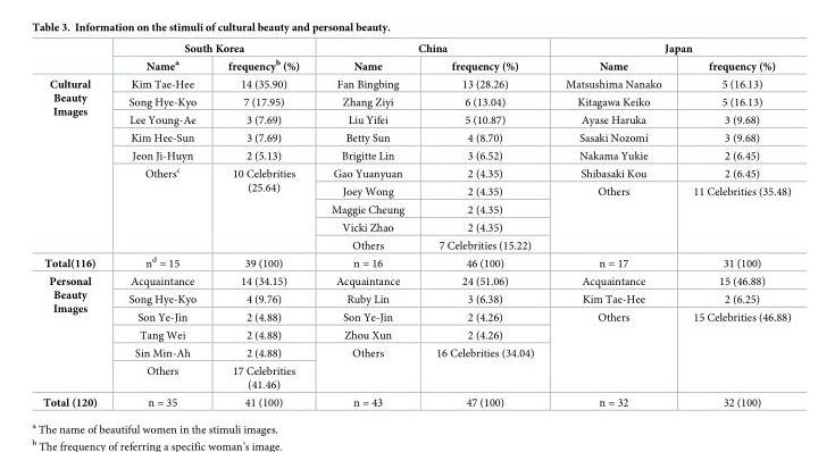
<table><thead><tr><td rowspan="2"></td><td colspan="2">South Korea</td><td colspan="2">China</td><td colspan="2">Japan</td></tr><tr><td>Name<sup>a</sup></td><td>frequency<sup>b</sup> (%)</td><td>Name</td><td>frequency (%)</td><td>Name</td><td>frequency (%)</td></tr></thead><tbody><tr><td rowspan="10">Cultural Beauty Images</td><td>Kim Tae-Hee</td><td>14 (35.90)</td><td>Fan Bingbing</td><td>13 (28.26)</td><td>Matsushima Nanako</td><td>5 (16.13)</td></tr><tr><td>Song Hye-Kyo</td><td>7 (17.95)</td><td>Zhang Ziyi</td><td>6 (13.04)</td><td>Kitagawa Keiko</td><td>5 (16.13)</td></tr><tr><td>Lee Young-Ae</td><td>3 (7.69)</td><td>Liu Yifei</td><td>5 (10.87)</td><td>Ayase Haruka</td><td>3 (9.68)</td></tr><tr><td>Kim Hee-Sun</td><td>3 (7.69)</td><td>Betty Sun</td><td>4 (8.70)</td><td>Sasaki Nozomi</td><td>3 (9.68)</td></tr><tr><td>Jeon Ji-Huyn</td><td>2 (5.13)</td><td>Brigitte Lin</td><td>3 (6.52)</td><td>Nakama Yukie</td><td>2 (6.45)</td></tr><tr><td rowspan="5">Others<sup>c</sup></td><td rowspan="5">10 Celebrities (25.64)</td><td>Gao Yuanyuan</td><td>2 (4.35)</td><td>Shibasaki Kou</td><td>2 (6.45)</td></tr><tr><td>Joey Wong</td><td>2 (4.35)</td><td rowspan="4">Others</td><td rowspan="4">11 Celebrities (35.48)</td></tr><tr><td>Maggie Cheung</td><td>2 (4.35)</td></tr><tr><td>Vicki Zhao</td><td>2 (4.35)</td></tr><tr><td>Others</td><td>7 Celebrities (15.22)</td></tr><tr><td>Total(116)</td><td>n<sup>d</sup> = 15</td><td>39 (100)</td><td>n = 16</td><td>46 (100)</td><td>n = 17</td><td>31 (100)</td></tr><tr><td rowspan="6">Personal Beauty Images</td><td>Acquaintance</td><td>14 (34.15)</td><td>Acquaintance</td><td>24 (51.06)</td><td>Acquaintance</td><td>15 (46.88)</td></tr><tr><td>Song Hye-Kyo</td><td>4 (9.76)</td><td>Ruby Lin</td><td>3 (6.38)</td><td>Kim Tae-Hee</td><td>2 (6.25)</td></tr><tr><td>Son Ye-Jin</td><td>2 (4.88)</td><td>Son Ye-Jin</td><td>2 (4.26)</td><td rowspan="4">Others</td><td rowspan="4">15 Celebrities (46.88)</td></tr><tr><td>Tang Wei</td><td>2 (4.88)</td><td>Zhou Xun</td><td>2 (4.26)</td></tr><tr><td>Sin Min-Ah</td><td>2 (4.88)</td><td rowspan="2">Others</td><td rowspan="2">16 Celebrities (34.04)</td></tr><tr><td>Others</td><td>17 Celebrities (41.46)</td></tr><tr><td>Total (120)</td><td>n = 35</td><td>41 (100)</td><td>n = 43</td><td>47 (100)</td><td>n = 32</td><td>32 (100)</td></tr></tbody></table>